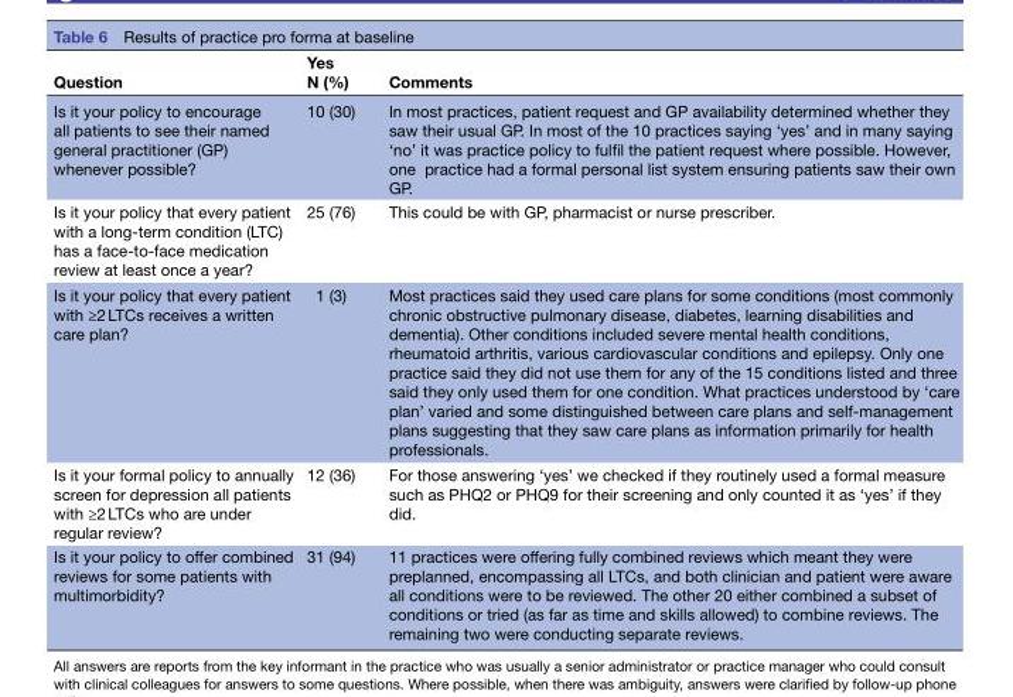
<table><thead><tr><td>Question</td><td>Yes N (%)</td><td>Comments</td></tr></thead><tbody><tr><td>Is it your policy to encourage all patients to see their named general practitioner (GP) whenever possible?</td><td>10 (30)</td><td>In most practices, patient request and GP availability determined whether they saw their usual GP. In most of the 10 practices saying ‘yes’ and in many saying ‘no’ it was practice policy to fulfil the patient request where possible. However, one practice had a formal personal list system ensuring patients saw their own GP.</td></tr><tr><td>Is it your policy that every patient with a long-term condition (LTC) has a face-to-face medication review at least once a year?</td><td>25 (76)</td><td>This could be with GP, pharmacist or nurse prescriber.</td></tr><tr><td>Is it your policy that every patient with ≥2 LTCs receives a written care plan?</td><td>1 (3)</td><td>Most practices said they used care plans for some conditions (most commonly chronic obstructive pulmonary disease, diabetes, learning disabilities and dementia). Other conditions included severe mental health conditions, rheumatoid arthritis, various cardiovascular conditions and epilepsy. Only one practice said they did not use them for any of the 15 conditions listed and three said they only used them for one condition. What practices understood by ‘care plan’ varied and some distinguished between care plans and self-management plans suggesting that they saw care plans as information primarily for health professionals.</td></tr><tr><td>Is it your formal policy to annually screen for depression all patients with ≥2 LTCs who are under regular review?</td><td>12 (36)</td><td>For those answering ‘yes’ we checked if they routinely used a formal measure such as PHQ2 or PHQ9 for their screening and only counted it as ‘yes’ if they did.</td></tr><tr><td>Is it your policy to offer combined reviews for some patients with multimorbidity?</td><td>31 (94)</td><td>11 practices were offering fully combined reviews which meant they were preplanned, encompassing all LTCs, and both clinician and patient were aware all conditions were to be reviewed. The other 20 either combined a subset of conditions or tried (as far as time and skills allowed) to combine reviews. The remaining two were conducting separate reviews.</td></tr></tbody></table>